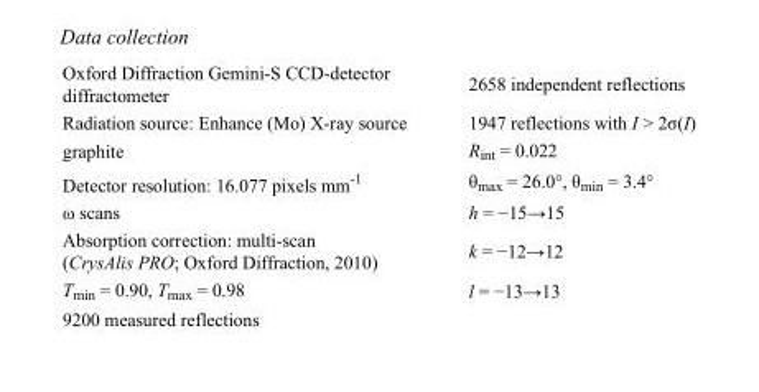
<table><tbody><tr><td>Oxford Diffraction Gemini-S CCD-detector diffractometer</td><td>2658 independent reflections</td></tr><tr><td>Radiation source: Enhance (Mo) X-ray source</td><td>1947 reflections with I &gt; 2σ(I)</td></tr><tr><td>graphite</td><td>R<sub>int</sub> = 0.022</td></tr><tr><td>Detector resolution: 16.077 pixels mm<sup>-1</sup></td><td>θ<sub>max</sub> = 26.0°, θ<sub>min</sub> = 3.4°</td></tr><tr><td>ω scans</td><td>h = −15→15</td></tr><tr><td>Absorption correction: multi-scan (CrysAlis PRO; Oxford Diffraction, 2010)</td><td>k = −12→12</td></tr><tr><td>T<sub>min</sub> = 0.90, T<sub>max</sub> = 0.98</td><td>l = −13→13</td></tr><tr><td>9200 measured reflections</td><td></td></tr></tbody></table>